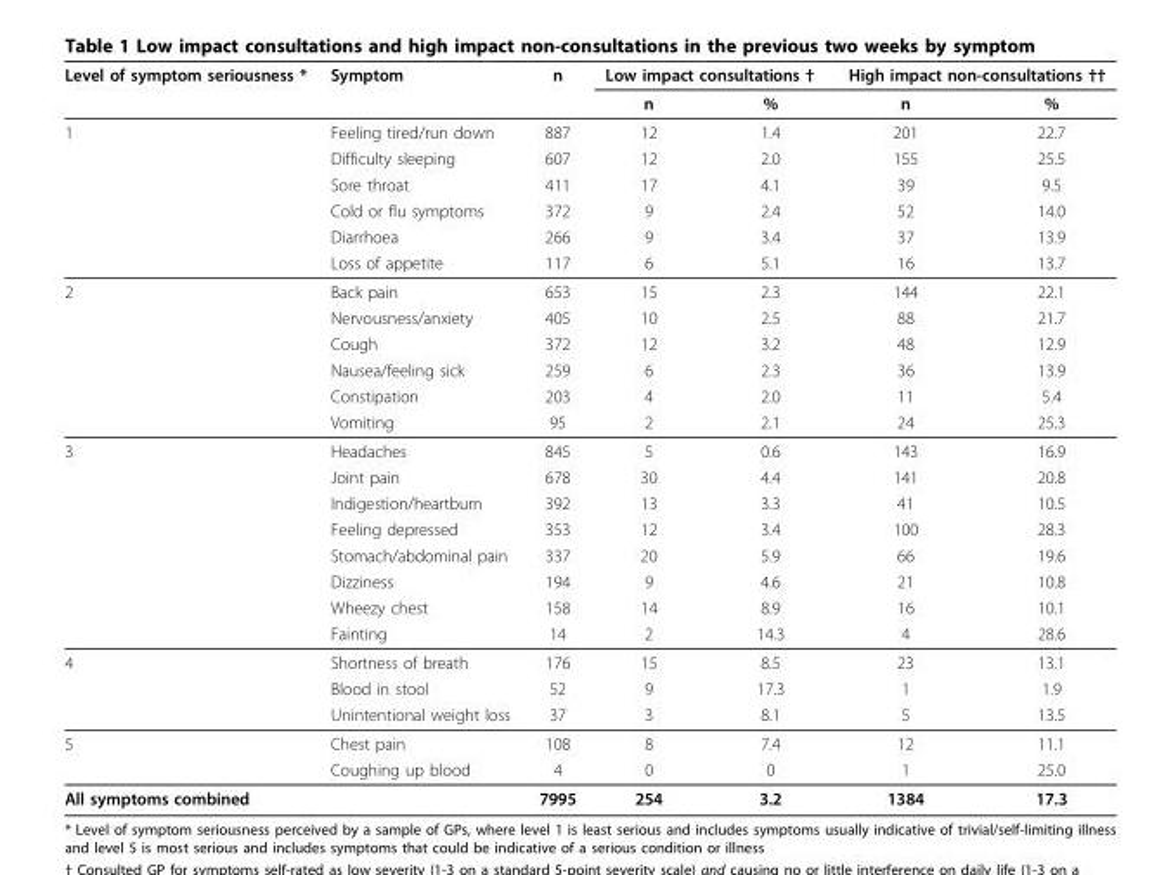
<table><thead><tr><td rowspan="2">Level of symptom seriousness *</td><td rowspan="2">Symptom</td><td rowspan="2">n</td><td colspan="2">Low impact consultations †</td><td colspan="2">High impact non-consultations ††</td></tr><tr><td>n</td><td>%</td><td>n</td><td>%</td></tr></thead><tbody><tr><td rowspan="6">1</td><td>Feeling tired/run down</td><td>887</td><td>12</td><td>1.4</td><td>201</td><td>22.7</td></tr><tr><td>Difficulty sleeping</td><td>607</td><td>12</td><td>2.0</td><td>155</td><td>25.5</td></tr><tr><td>Sore throat</td><td>411</td><td>17</td><td>4.1</td><td>39</td><td>9.5</td></tr><tr><td>Cold or flu symptoms</td><td>372</td><td>9</td><td>2.4</td><td>52</td><td>14.0</td></tr><tr><td>Diarrhoea</td><td>266</td><td>9</td><td>3.4</td><td>37</td><td>13.9</td></tr><tr><td>Loss of appetite</td><td>117</td><td>6</td><td>5.1</td><td>16</td><td>13.7</td></tr><tr><td rowspan="6">2</td><td>Back pain</td><td>653</td><td>15</td><td>2.3</td><td>144</td><td>22.1</td></tr><tr><td>Nervousness/anxiety</td><td>405</td><td>10</td><td>2.5</td><td>88</td><td>21.7</td></tr><tr><td>Cough</td><td>372</td><td>12</td><td>3.2</td><td>48</td><td>12.9</td></tr><tr><td>Nausea/feeling sick</td><td>259</td><td>6</td><td>2.3</td><td>36</td><td>13.9</td></tr><tr><td>Constipation</td><td>203</td><td>4</td><td>2.0</td><td>11</td><td>5.4</td></tr><tr><td>Vomiting</td><td>95</td><td>2</td><td>2.1</td><td>24</td><td>25.3</td></tr><tr><td rowspan="8">3</td><td>Headaches</td><td>845</td><td>5</td><td>0.6</td><td>143</td><td>16.9</td></tr><tr><td>Joint pain</td><td>678</td><td>30</td><td>4.4</td><td>141</td><td>20.8</td></tr><tr><td>Indigestion/heartburn</td><td>392</td><td>13</td><td>3.3</td><td>41</td><td>10.5</td></tr><tr><td>Feeling depressed</td><td>353</td><td>12</td><td>3.4</td><td>100</td><td>28.3</td></tr><tr><td>Stomach/abdominal pain</td><td>337</td><td>20</td><td>5.9</td><td>66</td><td>19.6</td></tr><tr><td>Dizziness</td><td>194</td><td>9</td><td>4.6</td><td>21</td><td>10.8</td></tr><tr><td>Wheezy chest</td><td>158</td><td>14</td><td>8.9</td><td>16</td><td>10.1</td></tr><tr><td>Fainting</td><td>14</td><td>2</td><td>14.3</td><td>4</td><td>28.6</td></tr><tr><td rowspan="3">4</td><td>Shortness of breath</td><td>176</td><td>15</td><td>8.5</td><td>23</td><td>13.1</td></tr><tr><td>Blood in stool</td><td>52</td><td>9</td><td>17.3</td><td>1</td><td>1.9</td></tr><tr><td>Unintentional weight loss</td><td>37</td><td>3</td><td>8.1</td><td>5</td><td>13.5</td></tr><tr><td rowspan="2">5</td><td>Chest pain</td><td>108</td><td>8</td><td>7.4</td><td>12</td><td>11.1</td></tr><tr><td>Coughing up blood</td><td>4</td><td>0</td><td>0</td><td>1</td><td>25.0</td></tr><tr><td colspan="2">All symptoms combined</td><td>7995</td><td>254</td><td>3.2</td><td>1384</td><td>17.3</td></tr></tbody></table>